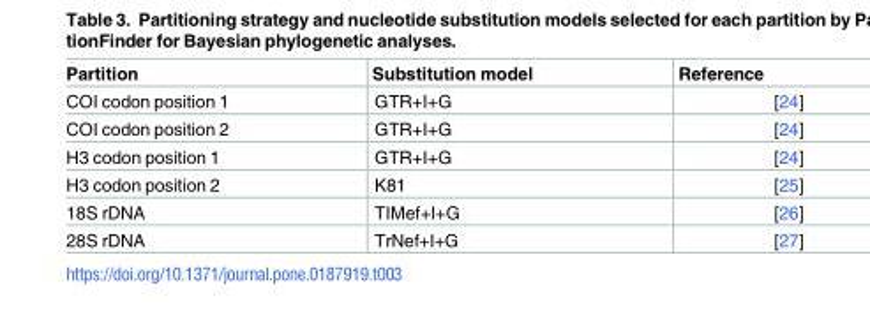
<table><thead><tr><td>Partition</td><td>Substitution model</td><td>Reference</td></tr></thead><tbody><tr><td>COI codon position 1</td><td>GTR+I+G</td><td>[24]</td></tr><tr><td>COI codon position 2</td><td>GTR+I+G</td><td>[24]</td></tr><tr><td>H3 codon position 1</td><td>GTR+I+G</td><td>[24]</td></tr><tr><td>H3 codon position 2</td><td>K81</td><td>[25]</td></tr><tr><td>18S rDNA</td><td>TIMef+I+G</td><td>[26]</td></tr><tr><td>28S rDNA</td><td>TrNef+I+G</td><td>[27]</td></tr></tbody></table>